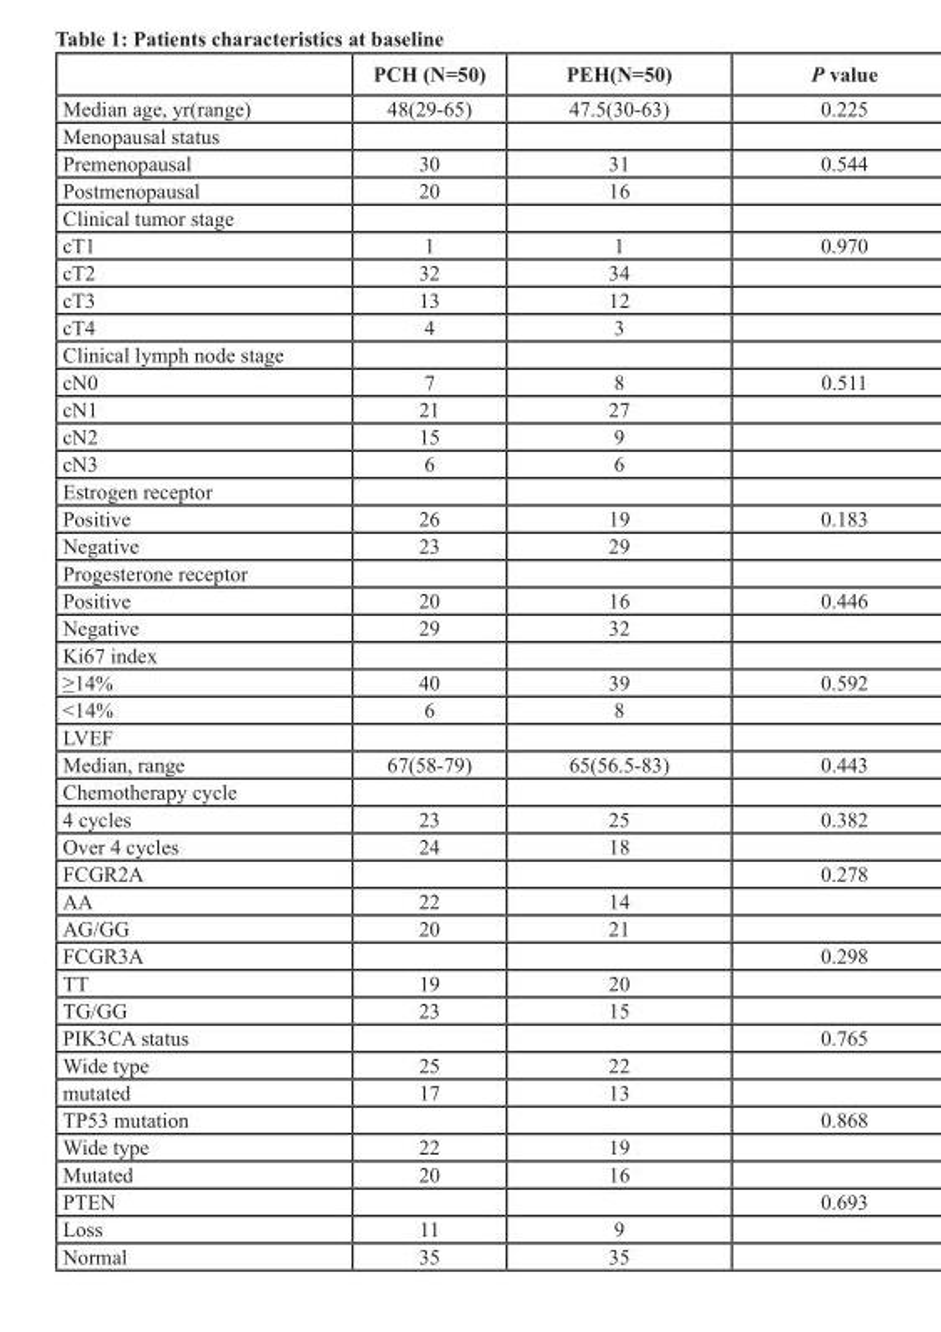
<table><thead><tr><td></td><td>PCH (N=50)</td><td>PEH(N=50)</td><td>P value</td></tr></thead><tbody><tr><td>Median age, yr(range)</td><td>48(29-65)</td><td>47.5(30-63)</td><td>0.225</td></tr><tr><td colspan="4">Menopausal status</td></tr><tr><td>Premenopausal</td><td>30</td><td>31</td><td>0.544</td></tr><tr><td>Postmenopausal</td><td>20</td><td>16</td><td></td></tr><tr><td colspan="4">Clinical tumor stage</td></tr><tr><td>cT1</td><td>1</td><td>1</td><td>0.970</td></tr><tr><td>cT2</td><td>32</td><td>34</td><td></td></tr><tr><td>cT3</td><td>13</td><td>12</td><td></td></tr><tr><td>cT4</td><td>4</td><td>3</td><td></td></tr><tr><td colspan="4">Clinical lymph node stage</td></tr><tr><td>cN0</td><td>7</td><td>8</td><td>0.511</td></tr><tr><td>cN1</td><td>21</td><td>27</td><td></td></tr><tr><td>cN2</td><td>15</td><td>9</td><td></td></tr><tr><td>cN3</td><td>6</td><td>6</td><td></td></tr><tr><td colspan="4">Estrogen receptor</td></tr><tr><td>Positive</td><td>26</td><td>19</td><td>0.183</td></tr><tr><td>Negative</td><td>23</td><td>29</td><td></td></tr><tr><td colspan="4">Progesterone receptor</td></tr><tr><td>Positive</td><td>20</td><td>16</td><td>0.446</td></tr><tr><td>Negative</td><td>29</td><td>32</td><td></td></tr><tr><td colspan="4">Ki67 index</td></tr><tr><td>≥14%</td><td>40</td><td>39</td><td>0.592</td></tr><tr><td>&lt;14%</td><td>6</td><td>8</td><td></td></tr><tr><td colspan="4">LVEF</td></tr><tr><td>Median, range</td><td>67(58-79)</td><td>65(56.5-83)</td><td>0.443</td></tr><tr><td colspan="4">Chemotherapy cycle</td></tr><tr><td>4 cycles</td><td>23</td><td>25</td><td>0.382</td></tr><tr><td>Over 4 cycles</td><td>24</td><td>18</td><td></td></tr><tr><td>FCGR2A</td><td></td><td></td><td>0.278</td></tr><tr><td>AA</td><td>22</td><td>14</td><td></td></tr><tr><td>AG/GG</td><td>20</td><td>21</td><td></td></tr><tr><td>FCGR3A</td><td></td><td></td><td>0.298</td></tr><tr><td>TT</td><td>19</td><td>20</td><td></td></tr><tr><td>TG/GG</td><td>23</td><td>15</td><td></td></tr><tr><td>PIK3CA status</td><td></td><td></td><td>0.765</td></tr><tr><td>Wide type</td><td>25</td><td>22</td><td></td></tr><tr><td>mutated</td><td>17</td><td>13</td><td></td></tr><tr><td>TP53 mutation</td><td></td><td></td><td>0.868</td></tr><tr><td>Wide type</td><td>22</td><td>19</td><td></td></tr><tr><td>Mutated</td><td>20</td><td>16</td><td></td></tr><tr><td>PTEN</td><td></td><td></td><td>0.693</td></tr><tr><td>Loss</td><td>11</td><td>9</td><td></td></tr><tr><td>Normal</td><td>35</td><td>35</td><td></td></tr></tbody></table>